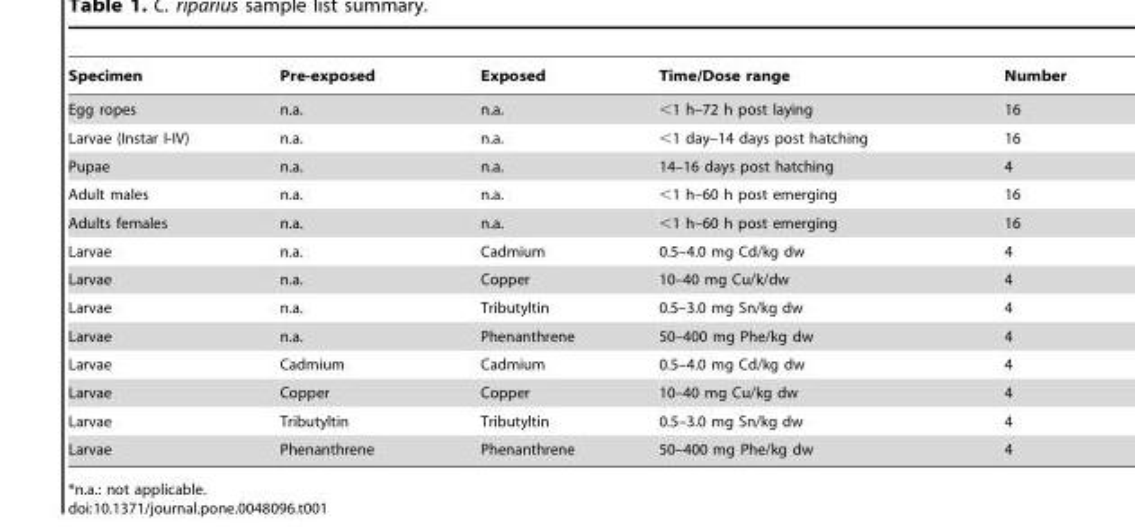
<table><thead><tr><td>Specimen</td><td>Pre-exposed</td><td>Exposed</td><td>Time/Dose range</td><td>Number</td></tr></thead><tbody><tr><td>Egg ropes</td><td>n.a.</td><td>n.a.</td><td>&lt;1 h–72 h post laying</td><td>16</td></tr><tr><td>Larvae (Instar I-IV)</td><td>n.a.</td><td>n.a.</td><td>&lt;1 day–14 days post hatching</td><td>16</td></tr><tr><td>Pupae</td><td>n.a.</td><td>n.a.</td><td>14–16 days post hatching</td><td>4</td></tr><tr><td>Adult males</td><td>n.a.</td><td>n.a.</td><td>&lt;1 h–60 h post emerging</td><td>16</td></tr><tr><td>Adults females</td><td>n.a.</td><td>n.a.</td><td>&lt;1 h–60 h post emerging</td><td>16</td></tr><tr><td>Larvae</td><td>n.a.</td><td>Cadmium</td><td>0.5–4.0 mg Cd/kg dw</td><td>4</td></tr><tr><td>Larvae</td><td>n.a.</td><td>Copper</td><td>10–40 mg Cu/k/dw</td><td>4</td></tr><tr><td>Larvae</td><td>n.a.</td><td>Tributyltin</td><td>0.5–3.0 mg Sn/kg dw</td><td>4</td></tr><tr><td>Larvae</td><td>n.a.</td><td>Phenanthrene</td><td>50–400 mg Phe/kg dw</td><td>4</td></tr><tr><td>Larvae</td><td>Cadmium</td><td>Cadmium</td><td>0.5–4.0 mg Cd/kg dw</td><td>4</td></tr><tr><td>Larvae</td><td>Copper</td><td>Copper</td><td>10–40 mg Cu/kg dw</td><td>4</td></tr><tr><td>Larvae</td><td>Tributyltin</td><td>Tributyltin</td><td>0.5–3.0 mg Sn/kg dw</td><td>4</td></tr><tr><td>Larvae</td><td>Phenanthrene</td><td>Phenanthrene</td><td>50–400 mg Phe/kg dw</td><td>4</td></tr></tbody></table>